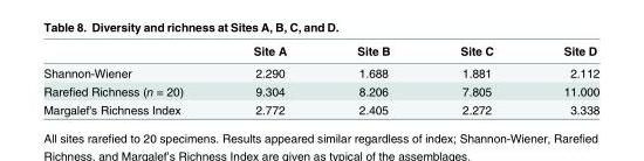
<table><thead><tr><td></td><td>Site A</td><td>Site B</td><td>Site C</td><td>Site D</td></tr></thead><tbody><tr><td>Shannon-Wiener</td><td>2.290</td><td>1.688</td><td>1.881</td><td>2.112</td></tr><tr><td>Rarefied Richness (n = 20)</td><td>9.304</td><td>8.206</td><td>7.805</td><td>11.000</td></tr><tr><td>Margalef&#x27;s Richness Index</td><td>2.772</td><td>2.405</td><td>2.272</td><td>3.338</td></tr></tbody></table>